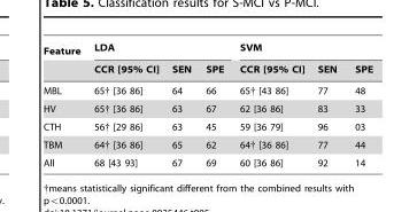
<table><thead><tr><td rowspan="2">Feature</td><td colspan="3">LDA</td><td colspan="3">SVM</td></tr><tr><td>CCR [95% CI]</td><td>SEN</td><td>SPE</td><td>CCR [95% CI]</td><td>SEN</td><td>SPE</td></tr></thead><tbody><tr><td>MBL</td><td>65† [36 86]</td><td>64</td><td>66</td><td>65† [43 86]</td><td>77</td><td>48</td></tr><tr><td>HV</td><td>65† [36 86]</td><td>63</td><td>67</td><td>62 [36 86]</td><td>83</td><td>33</td></tr><tr><td>CTH</td><td>56† [29 86]</td><td>63</td><td>45</td><td>59 [36 79]</td><td>96</td><td>03</td></tr><tr><td>TBM</td><td>64† [36 86]</td><td>65</td><td>62</td><td>64† [36 86]</td><td>77</td><td>44</td></tr><tr><td>All</td><td>68 [43 93]</td><td>67</td><td>69</td><td>60 [36 86]</td><td>92</td><td>14</td></tr></tbody></table>